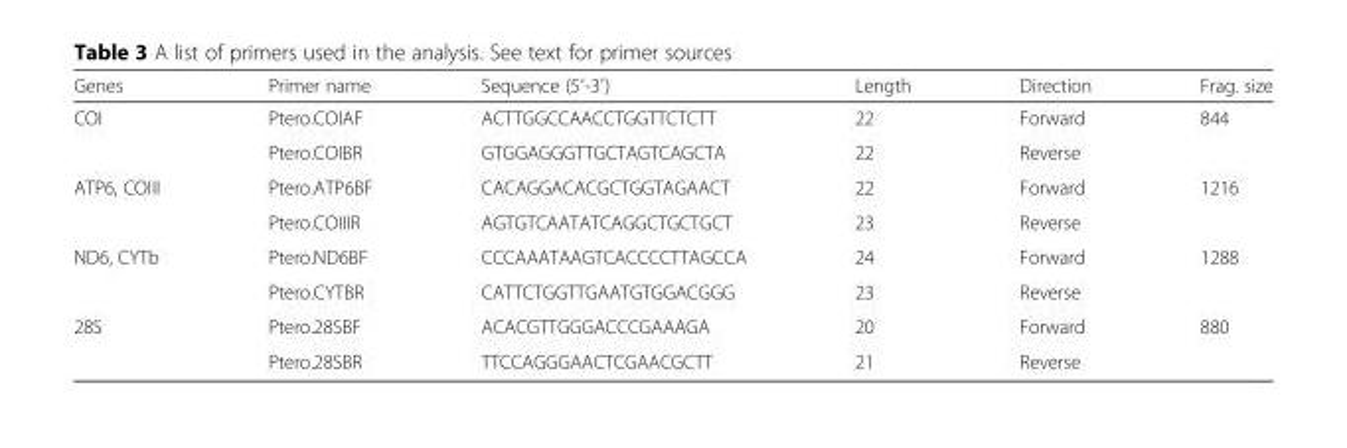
<table><thead><tr><td>Genes</td><td>Primer name</td><td>Sequence (5′-3′)</td><td>Length</td><td>Direction</td><td>Frag. size</td></tr></thead><tbody><tr><td rowspan="2">COI</td><td>Ptero.COIAF</td><td>ACTTGGCCAACCTGGTTCTCTT</td><td>22</td><td>Forward</td><td>844</td></tr><tr><td>Ptero.COIBR</td><td>GTGGAGGGTTGCTAGTCAGCTA</td><td>22</td><td>Reverse</td><td></td></tr><tr><td rowspan="2">ATP6, COIII</td><td>Ptero.ATP6BF</td><td>CACAGGACACGCTGGTAGAACT</td><td>22</td><td>Forward</td><td>1216</td></tr><tr><td>Ptero.COIIIR</td><td>AGTGTCAATATCAGGCTGCTGCT</td><td>23</td><td>Reverse</td><td></td></tr><tr><td rowspan="2">ND6, CYTb</td><td>Ptero.ND6BF</td><td>CCCAAATAAGTCACCCCTTAGCCA</td><td>24</td><td>Forward</td><td>1288</td></tr><tr><td>Ptero.CYTBR</td><td>CATTCTGGTTGAATGTGGACGGG</td><td>23</td><td>Reverse</td><td></td></tr><tr><td rowspan="2">28S</td><td>Ptero.28SBF</td><td>ACACGTTGGGACCCGAAAGA</td><td>20</td><td>Forward</td><td>880</td></tr><tr><td>Ptero.28SBR</td><td>TTCCAGGGAACTCGAACGCTT</td><td>21</td><td>Reverse</td><td></td></tr></tbody></table>